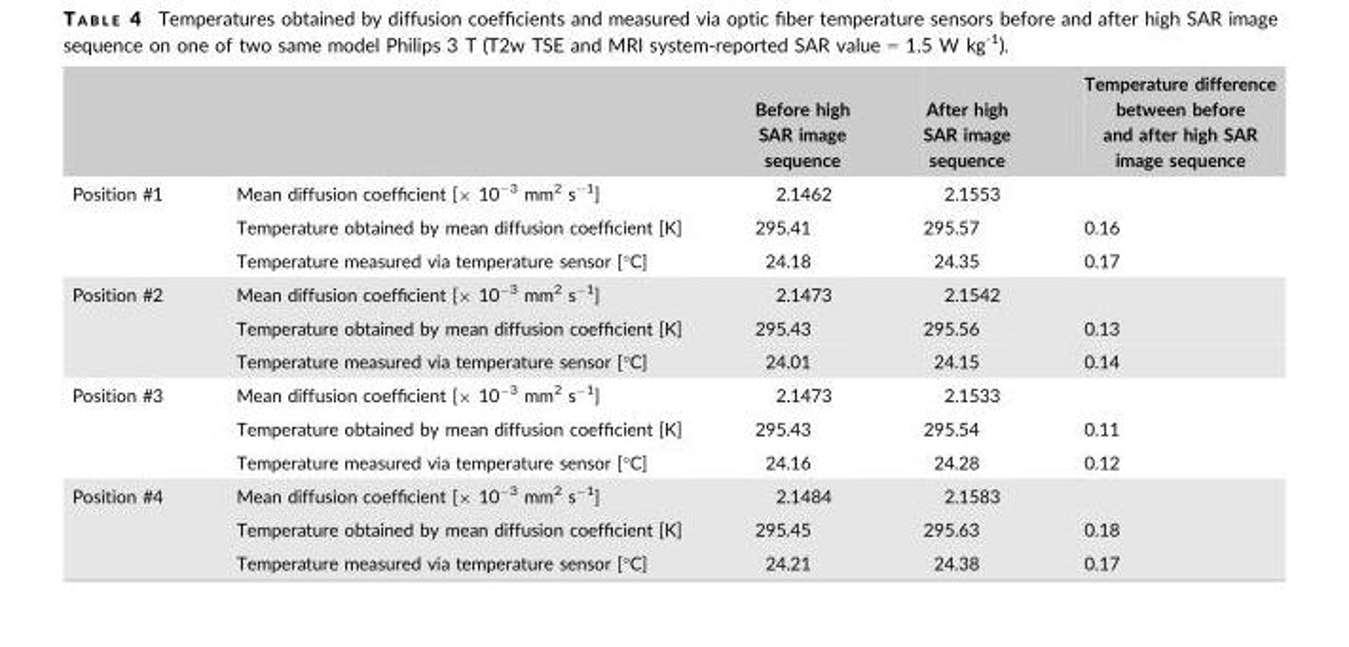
<table><thead><tr><td></td><td></td><td>Before high SAR image sequence</td><td>After high SAR image sequence</td><td>Temperature difference between before and after high SAR image sequence</td></tr></thead><tbody><tr><td rowspan="3">Position #1</td><td>Mean diffusion coefficient [× 10<sup>−3</sup> mm<sup>2</sup> s<sup>−1</sup>]</td><td>2.1462</td><td>2.1553</td><td></td></tr><tr><td>Temperature obtained by mean diffusion coefficient [K]</td><td>295.41</td><td>295.57</td><td>0.16</td></tr><tr><td>Temperature measured via temperature sensor [°C]</td><td>24.18</td><td>24.35</td><td>0.17</td></tr><tr><td rowspan="3">Position #2</td><td>Mean diffusion coefficient [× 10<sup>−3</sup> mm<sup>2</sup> s<sup>−1</sup>]</td><td>2.1473</td><td>2.1542</td><td></td></tr><tr><td>Temperature obtained by mean diffusion coefficient [K]</td><td>295.43</td><td>295.56</td><td>0.13</td></tr><tr><td>Temperature measured via temperature sensor [°C]</td><td>24.01</td><td>24.15</td><td>0.14</td></tr><tr><td rowspan="3">Position #3</td><td>Mean diffusion coefficient [× 10<sup>−3</sup> mm<sup>2</sup> s<sup>−1</sup>]</td><td>2.1473</td><td>2.1533</td><td></td></tr><tr><td>Temperature obtained by mean diffusion coefficient [K]</td><td>295.43</td><td>295.54</td><td>0.11</td></tr><tr><td>Temperature measured via temperature sensor [°C]</td><td>24.16</td><td>24.28</td><td>0.12</td></tr><tr><td rowspan="3">Position #4</td><td>Mean diffusion coefficient [× 10<sup>−3</sup> mm<sup>2</sup> s<sup>−1</sup>]</td><td>2.1484</td><td>2.1583</td><td></td></tr><tr><td>Temperature obtained by mean diffusion coefficient [K]</td><td>295.45</td><td>295.63</td><td>0.18</td></tr><tr><td>Temperature measured via temperature sensor [°C]</td><td>24.21</td><td>24.38</td><td>0.17</td></tr></tbody></table>